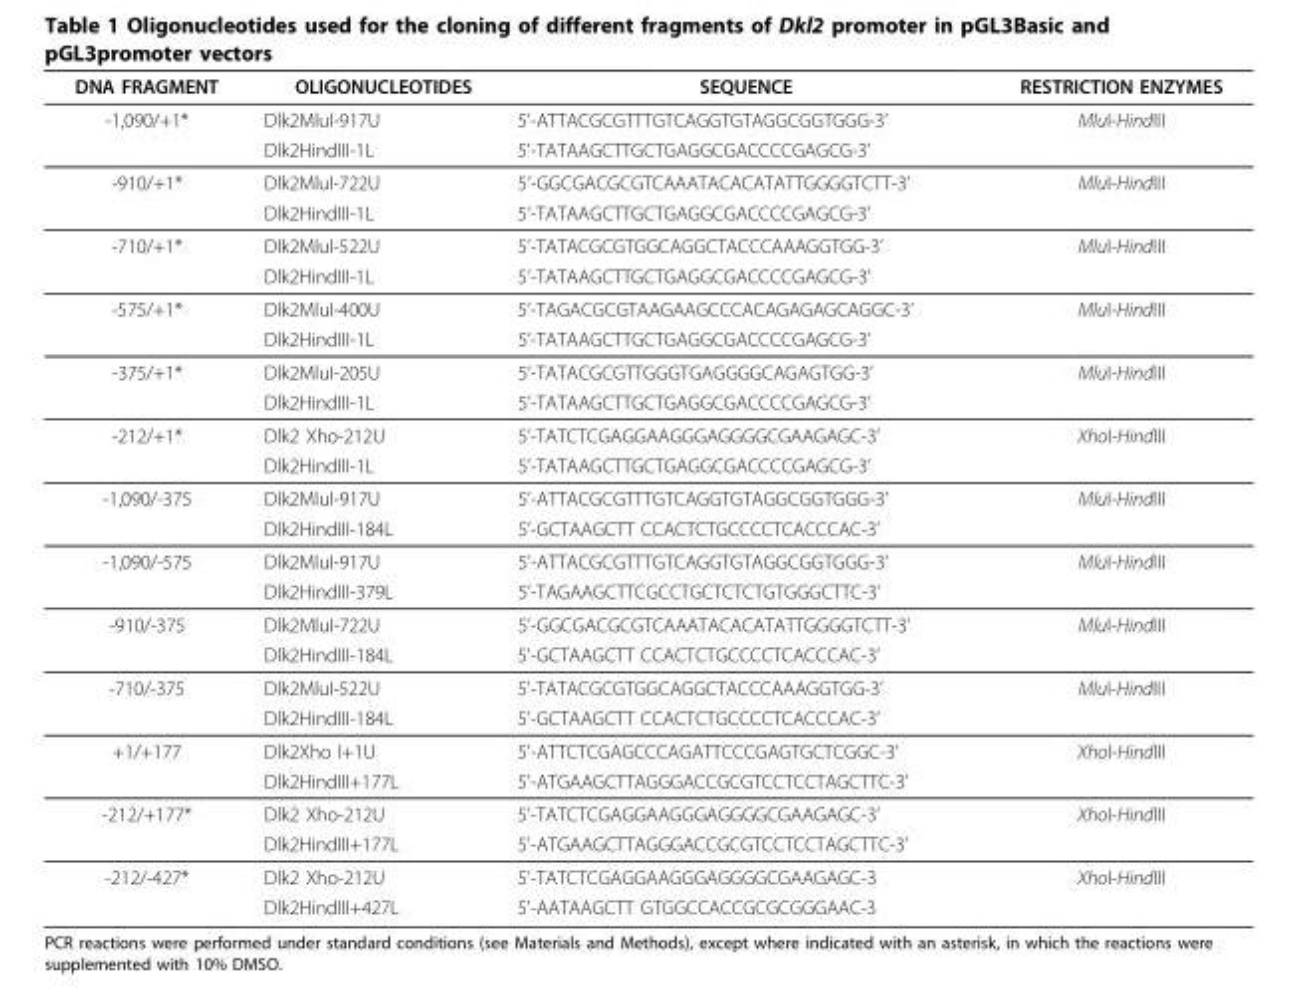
<table><thead><tr><td>DNA FRAGMENT</td><td>OLIGONUCLEOTIDES</td><td>SEQUENCE</td><td>RESTRICTION ENZYMES</td></tr></thead><tbody><tr><td rowspan="2">-1,090/+1*</td><td>Dlk2MluI-917U</td><td>5’-ATTACGCGTTTGTCAGGTGTAGGCGGTGGG-3’</td><td>MluI-HindIII</td></tr><tr><td>Dlk2HindIII-1L</td><td>5’-TATAAGCTTGCTGAGGCGACCCCGAGCG-3’</td><td></td></tr><tr><td rowspan="2">-910/+1*</td><td>Dlk2MluI-722U</td><td>5’-GGCGACGCGTCAAATACACATATTGGGGTCTT-3’</td><td>MluI-HindIII</td></tr><tr><td>Dlk2HindIII-1L</td><td>5’-TATAAGCTTGCTGAGGCGACCCCGAGCG-3’</td><td></td></tr><tr><td rowspan="2">-710/+1*</td><td>Dlk2MluI-522U</td><td>5’-TATACGCGTGGCAGGCTACCCAAAGGTGG-3’</td><td>MluI-HindIII</td></tr><tr><td>Dlk2HindIII-1L</td><td>5’-TATAAGCTTGCTGAGGCGACCCCGAGCG-3’</td><td></td></tr><tr><td rowspan="2">-575/+1*</td><td>Dlk2MluI-400U</td><td>5’-TAGACGCGTAAGAAGCCCACAGAGAGCAGGC-3’</td><td>MluI-HindIII</td></tr><tr><td>Dlk2HindIII-1L</td><td>5’-TATAAGCTTGCTGAGGCGACCCCGAGCG-3’</td><td></td></tr><tr><td rowspan="2">-375/+1*</td><td>Dlk2MluI-205U</td><td>5’-TATACGCGTTGGGTGAGGGGCAGAGTGG-3’</td><td>MluI-HindIII</td></tr><tr><td>Dlk2HindIII-1L</td><td>5’-TATAAGCTTGCTGAGGCGACCCCGAGCG-3’</td><td></td></tr><tr><td rowspan="2">-212/+1*</td><td>Dlk2 Xho-212U</td><td>5’-TATCTCGAGGAAGGGAGGGGCGAAGAGC-3’</td><td>XhoI-HindIII</td></tr><tr><td>Dlk2HindIII-1L</td><td>5’-TATAAGCTTGCTGAGGCGACCCCGAGCG-3’</td><td></td></tr><tr><td rowspan="2">-1,090/-375</td><td>Dlk2MluI-917U</td><td>5’-ATTACGCGTTTGTCAGGTGTAGGCGGTGGG-3’</td><td>MluI-HindIII</td></tr><tr><td>Dlk2HindIII-184L</td><td>5’-GCTAAGCTT CCACTCTGCCCCTCACCCAC-3’</td><td></td></tr><tr><td rowspan="2">-1,090/-575</td><td>Dlk2MluI-917U</td><td>5’-ATTACGCGTTTGTCAGGTGTAGGCGGTGGG-3’</td><td>MluI-HindIII</td></tr><tr><td>Dlk2HindIII-379L</td><td>5’-TAGAAGCTTCGCCTGCTCTCTGTGGGCTTC-3’</td><td></td></tr><tr><td rowspan="2">-910/-375</td><td>Dlk2MluI-722U</td><td>5’-GGCGACGCGTCAAATACACATATTGGGGTCTT-3’</td><td>MluI-HindIII</td></tr><tr><td>Dlk2HindIII-184L</td><td>5’-GCTAAGCTT CCACTCTGCCCCTCACCCAC-3’</td><td></td></tr><tr><td rowspan="2">-710/-375</td><td>Dlk2MluI-522U</td><td>5’-TATACGCGTGGCAGGCTACCCAAAGGTGG-3’</td><td>MluI-HindIII</td></tr><tr><td>Dlk2HindIII-184L</td><td>5’-GCTAAGCTT CCACTCTGCCCCTCACCCAC-3’</td><td></td></tr><tr><td rowspan="2">+1/+177</td><td>Dlk2Xho I+1U</td><td>5’-ATTCTCGAGCCCAGATTCCCGAGTGCTCGGC-3’</td><td>XhoI-HindIII</td></tr><tr><td>Dlk2HindIII+177L</td><td>5’-ATGAAGCTTAGGGACCGCGTCCTCCTAGCTTC-3’</td><td></td></tr><tr><td rowspan="2">-212/+177*</td><td>Dlk2 Xho-212U</td><td>5’-TATCTCGAGGAAGGGAGGGGCGAAGAGC-3’</td><td>XhoI-HindIII</td></tr><tr><td>Dlk2HindIII+177L</td><td>5’-ATGAAGCTTAGGGACCGCGTCCTCCTAGCTTC-3’</td><td></td></tr><tr><td rowspan="2">-212/-427*</td><td>Dlk2 Xho-212U</td><td>5’-TATCTCGAGGAAGGGAGGGGCGAAGAGC-3</td><td>XhoI-HindIII</td></tr><tr><td>Dlk2HindIII+427L</td><td>5’-AATAAGCTT GTGGCCACCGCGCGGGAAC-3</td><td></td></tr></tbody></table>